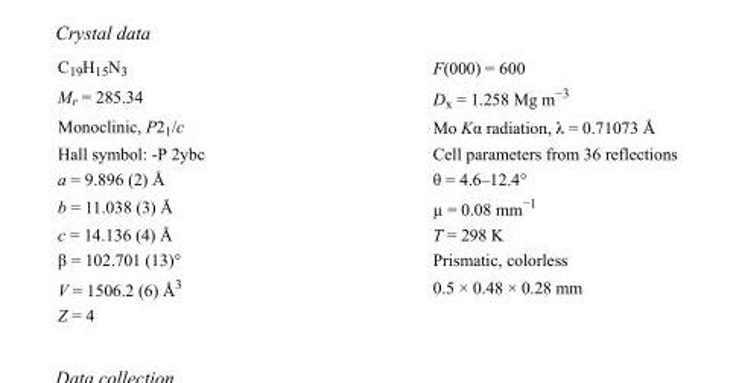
<table><tbody><tr><td>C<sub>19</sub>H<sub>15</sub>N<sub>3</sub></td><td>F(000) = 600</td></tr><tr><td>M<sub>r</sub> = 285.34</td><td>D<sub>x</sub> = 1.258 Mg m<sup>−3</sup></td></tr><tr><td>Monoclinic, P2<sub>1</sub>/c</td><td>Mo Kα radiation, λ = 0.71073 Å</td></tr><tr><td>Hall symbol: -P 2ybc</td><td>Cell parameters from 36 reflections</td></tr><tr><td>a = 9.896 (2) Å</td><td>θ = 4.6–12.4°</td></tr><tr><td>b = 11.038 (3) Å</td><td>µ = 0.08 mm<sup>−1</sup></td></tr><tr><td>c = 14.136 (4) Å</td><td>T = 298 K</td></tr><tr><td>β = 102.701 (13)°</td><td>Prismatic, colorless</td></tr><tr><td>V = 1506.2 (6) Å<sup>3</sup></td><td>0.5 × 0.48 × 0.28 mm</td></tr><tr><td>Z = 4</td><td></td></tr></tbody></table>